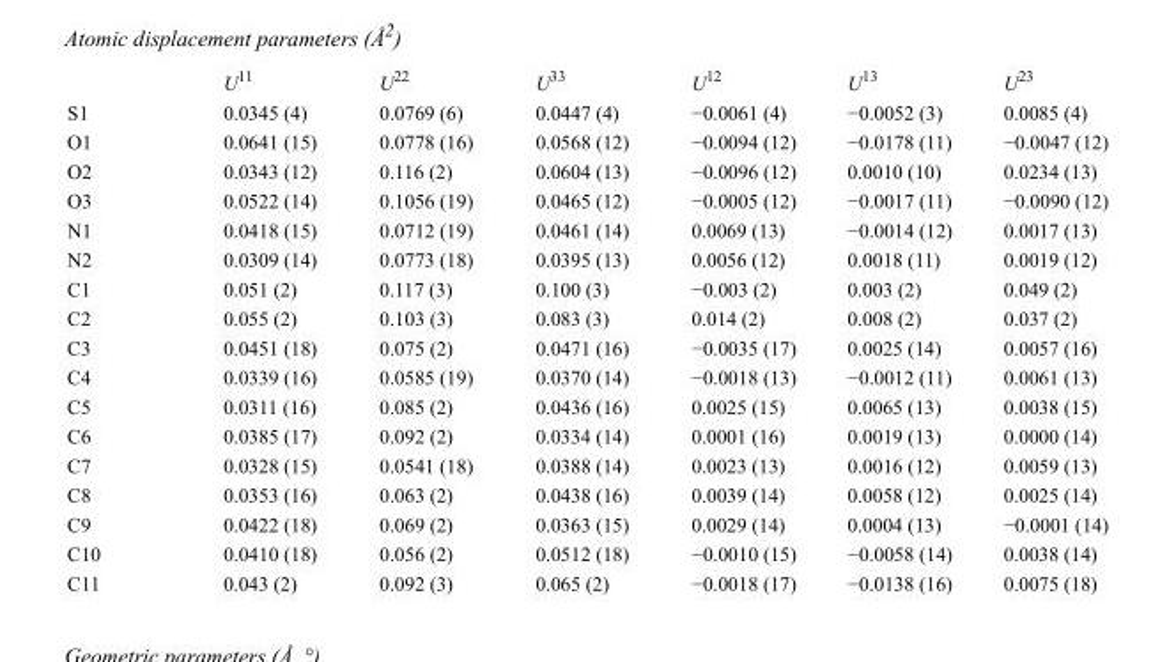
<table><thead><tr><td></td><td>U<sup>11</sup></td><td>U<sup>22</sup></td><td>U<sup>33</sup></td><td>U<sup>12</sup></td><td>U<sup>13</sup></td><td>U<sup>23</sup></td></tr></thead><tbody><tr><td>S1</td><td>0.0345 (4)</td><td>0.0769 (6)</td><td>0.0447 (4)</td><td>−0.0061 (4)</td><td>−0.0052 (3)</td><td>0.0085 (4)</td></tr><tr><td>O1</td><td>0.0641 (15)</td><td>0.0778 (16)</td><td>0.0568 (12)</td><td>−0.0094 (12)</td><td>−0.0178 (11)</td><td>−0.0047 (12)</td></tr><tr><td>O2</td><td>0.0343 (12)</td><td>0.116 (2)</td><td>0.0604 (13)</td><td>−0.0096 (12)</td><td>0.0010 (10)</td><td>0.0234 (13)</td></tr><tr><td>O3</td><td>0.0522 (14)</td><td>0.1056 (19)</td><td>0.0465 (12)</td><td>−0.0005 (12)</td><td>−0.0017 (11)</td><td>−0.0090 (12)</td></tr><tr><td>N1</td><td>0.0418 (15)</td><td>0.0712 (19)</td><td>0.0461 (14)</td><td>0.0069 (13)</td><td>−0.0014 (12)</td><td>0.0017 (13)</td></tr><tr><td>N2</td><td>0.0309 (14)</td><td>0.0773 (18)</td><td>0.0395 (13)</td><td>0.0056 (12)</td><td>0.0018 (11)</td><td>0.0019 (12)</td></tr><tr><td>C1</td><td>0.051 (2)</td><td>0.117 (3)</td><td>0.100 (3)</td><td>−0.003 (2)</td><td>0.003 (2)</td><td>0.049 (2)</td></tr><tr><td>C2</td><td>0.055 (2)</td><td>0.103 (3)</td><td>0.083 (3)</td><td>0.014 (2)</td><td>0.008 (2)</td><td>0.037 (2)</td></tr><tr><td>C3</td><td>0.0451 (18)</td><td>0.075 (2)</td><td>0.0471 (16)</td><td>−0.0035 (17)</td><td>0.0025 (14)</td><td>0.0057 (16)</td></tr><tr><td>C4</td><td>0.0339 (16)</td><td>0.0585 (19)</td><td>0.0370 (14)</td><td>−0.0018 (13)</td><td>−0.0012 (11)</td><td>0.0061 (13)</td></tr><tr><td>C5</td><td>0.0311 (16)</td><td>0.085 (2)</td><td>0.0436 (16)</td><td>0.0025 (15)</td><td>0.0065 (13)</td><td>0.0038 (15)</td></tr><tr><td>C6</td><td>0.0385 (17)</td><td>0.092 (2)</td><td>0.0334 (14)</td><td>0.0001 (16)</td><td>0.0019 (13)</td><td>0.0000 (14)</td></tr><tr><td>C7</td><td>0.0328 (15)</td><td>0.0541 (18)</td><td>0.0388 (14)</td><td>0.0023 (13)</td><td>0.0016 (12)</td><td>0.0059 (13)</td></tr><tr><td>C8</td><td>0.0353 (16)</td><td>0.063 (2)</td><td>0.0438 (16)</td><td>0.0039 (14)</td><td>0.0058 (12)</td><td>0.0025 (14)</td></tr><tr><td>C9</td><td>0.0422 (18)</td><td>0.069 (2)</td><td>0.0363 (15)</td><td>0.0029 (14)</td><td>0.0004 (13)</td><td>−0.0001 (14)</td></tr><tr><td>C10</td><td>0.0410 (18)</td><td>0.056 (2)</td><td>0.0512 (18)</td><td>−0.0010 (15)</td><td>−0.0058 (14)</td><td>0.0038 (14)</td></tr><tr><td>C11</td><td>0.043 (2)</td><td>0.092 (3)</td><td>0.065 (2)</td><td>−0.0018 (17)</td><td>−0.0138 (16)</td><td>0.0075 (18)</td></tr></tbody></table>